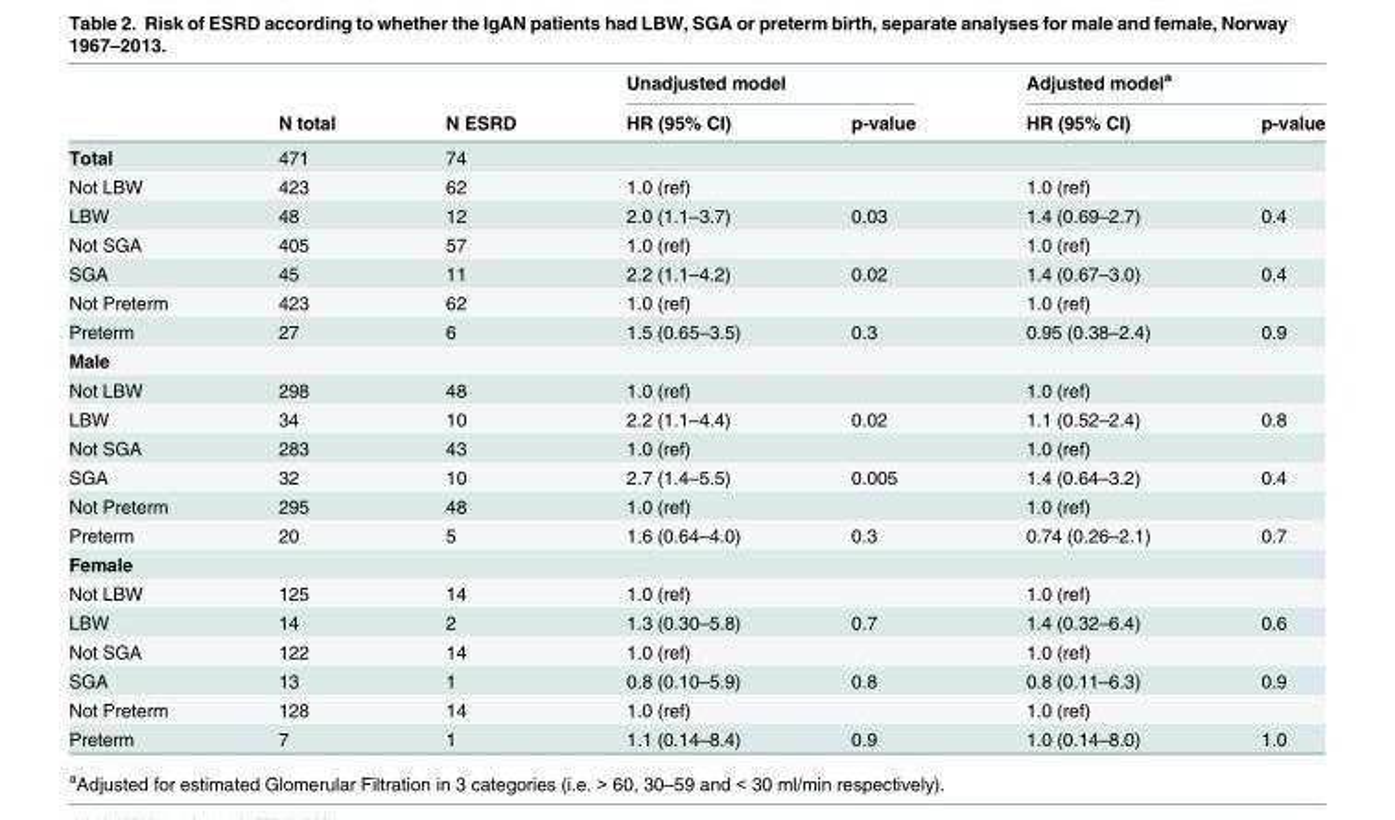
<table><thead><tr><td rowspan="2"></td><td rowspan="2">N total</td><td rowspan="2">N ESRD</td><td colspan="2">Unadjusted model</td><td colspan="2">Adjusted model<sup>a</sup></td></tr><tr><td>HR (95% CI)</td><td>p-value</td><td>HR (95% CI)</td><td>p-value</td></tr></thead><tbody><tr><td>Total</td><td>471</td><td>74</td><td></td><td></td><td></td><td></td></tr><tr><td>Not LBW</td><td>423</td><td>62</td><td>1.0 (ref)</td><td></td><td>1.0 (ref)</td><td></td></tr><tr><td>LBW</td><td>48</td><td>12</td><td>2.0 (1.1–3.7)</td><td>0.03</td><td>1.4 (0.69–2.7)</td><td>0.4</td></tr><tr><td>Not SGA</td><td>405</td><td>57</td><td>1.0 (ref)</td><td></td><td>1.0 (ref)</td><td></td></tr><tr><td>SGA</td><td>45</td><td>11</td><td>2.2 (1.1–4.2)</td><td>0.02</td><td>1.4 (0.67–3.0)</td><td>0.4</td></tr><tr><td>Not Preterm</td><td>423</td><td>62</td><td>1.0 (ref)</td><td></td><td>1.0 (ref)</td><td></td></tr><tr><td>Preterm</td><td>27</td><td>6</td><td>1.5 (0.65–3.5)</td><td>0.3</td><td>0.95 (0.38–2.4)</td><td>0.9</td></tr><tr><td colspan="7">Male</td></tr><tr><td>Not LBW</td><td>298</td><td>48</td><td>1.0 (ref)</td><td></td><td>1.0 (ref)</td><td></td></tr><tr><td>LBW</td><td>34</td><td>10</td><td>2.2 (1.1–4.4)</td><td>0.02</td><td>1.1 (0.52–2.4)</td><td>0.8</td></tr><tr><td>Not SGA</td><td>283</td><td>43</td><td>1.0 (ref)</td><td></td><td>1.0 (ref)</td><td></td></tr><tr><td>SGA</td><td>32</td><td>10</td><td>2.7 (1.4–5.5)</td><td>0.005</td><td>1.4 (0.64–3.2)</td><td>0.4</td></tr><tr><td>Not Preterm</td><td>295</td><td>48</td><td>1.0 (ref)</td><td></td><td>1.0 (ref)</td><td></td></tr><tr><td>Preterm</td><td>20</td><td>5</td><td>1.6 (0.64–4.0)</td><td>0.3</td><td>0.74 (0.26–2.1)</td><td>0.7</td></tr><tr><td colspan="7">Female</td></tr><tr><td>Not LBW</td><td>125</td><td>14</td><td>1.0 (ref)</td><td></td><td>1.0 (ref)</td><td></td></tr><tr><td>LBW</td><td>14</td><td>2</td><td>1.3 (0.30–5.8)</td><td>0.7</td><td>1.4 (0.32–6.4)</td><td>0.6</td></tr><tr><td>Not SGA</td><td>122</td><td>14</td><td>1.0 (ref)</td><td></td><td>1.0 (ref)</td><td></td></tr><tr><td>SGA</td><td>13</td><td>1</td><td>0.8 (0.10–5.9)</td><td>0.8</td><td>0.8 (0.11–6.3)</td><td>0.9</td></tr><tr><td>Not Preterm</td><td>128</td><td>14</td><td>1.0 (ref)</td><td></td><td>1.0 (ref)</td><td></td></tr><tr><td>Preterm</td><td>7</td><td>1</td><td>1.1 (0.14–8.4)</td><td>0.9</td><td>1.0 (0.14–8.0)</td><td>1.0</td></tr></tbody></table>